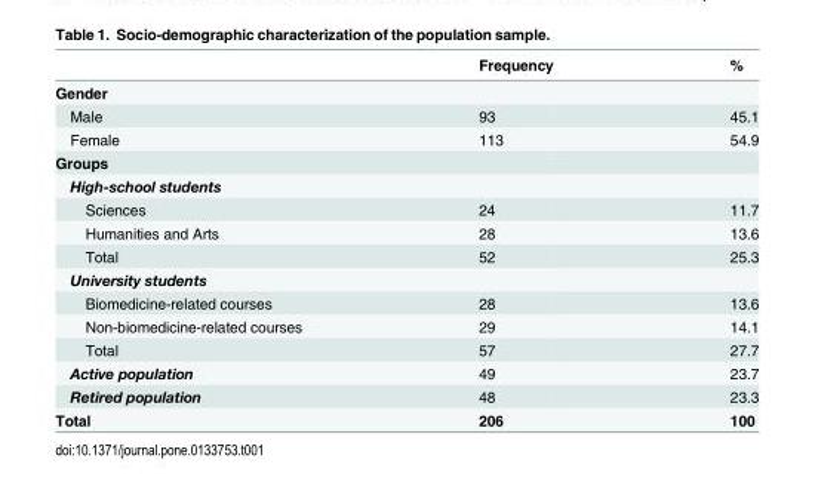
<table><thead><tr><td></td><td>Frequency</td><td>%</td></tr></thead><tbody><tr><td colspan="3">Gender</td></tr><tr><td>Male</td><td>93</td><td>45.1</td></tr><tr><td>Female</td><td>113</td><td>54.9</td></tr><tr><td colspan="3">Groups</td></tr><tr><td colspan="3">High-school students</td></tr><tr><td>Sciences</td><td>24</td><td>11.7</td></tr><tr><td>Humanities and Arts</td><td>28</td><td>13.6</td></tr><tr><td>Total</td><td>52</td><td>25.3</td></tr><tr><td colspan="3">University students</td></tr><tr><td>Biomedicine-related courses</td><td>28</td><td>13.6</td></tr><tr><td>Non-biomedicine-related courses</td><td>29</td><td>14.1</td></tr><tr><td>Total</td><td>57</td><td>27.7</td></tr><tr><td>Active population</td><td>49</td><td>23.7</td></tr><tr><td>Retired population</td><td>48</td><td>23.3</td></tr><tr><td>Total</td><td>206</td><td>100</td></tr></tbody></table>